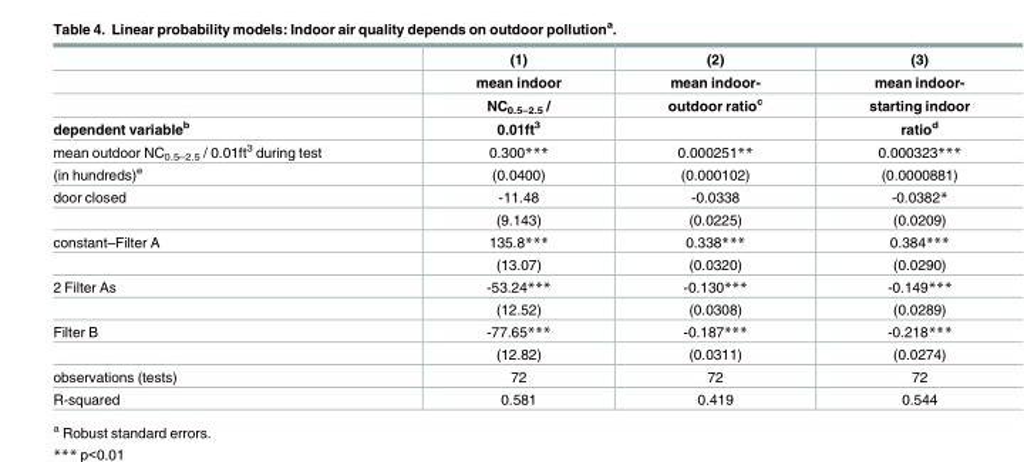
<table><thead><tr><td rowspan="4">dependent variable<sup>b</sup></td><td rowspan="4">(1) mean indoor NC<sub>0.5–2.5</sub> / 0.01ft<sup>3</sup></td><td rowspan="4">(2) mean indoor- outdoor ratio<sup>c</sup></td><td rowspan="4">(3) mean indoor- starting indoor ratio<sup>d</sup></td></tr><tr></tr><tr></tr><tr></tr></thead><tbody><tr><td>mean outdoor NC<sub>0.5–2.5</sub> / 0.01ft<sup>3</sup> during test</td><td>0.300***</td><td>0.000251**</td><td>0.000323***</td></tr><tr><td>(in hundreds)<sup>e</sup></td><td>(0.0400)</td><td>(0.000102)</td><td>(0.0000881)</td></tr><tr><td rowspan="2">door closed</td><td>-11.48</td><td>-0.0338</td><td>-0.0382*</td></tr><tr><td>(9.143)</td><td>(0.0225)</td><td>(0.0209)</td></tr><tr><td rowspan="2">constant–Filter A</td><td>135.8***</td><td>0.338***</td><td>0.384***</td></tr><tr><td>(13.07)</td><td>(0.0320)</td><td>(0.0290)</td></tr><tr><td rowspan="2">2 Filter As</td><td>-53.24***</td><td>-0.130***</td><td>-0.149***</td></tr><tr><td>(12.52)</td><td>(0.0308)</td><td>(0.0289)</td></tr><tr><td rowspan="2">Filter B</td><td>-77.65***</td><td>-0.187***</td><td>-0.218***</td></tr><tr><td>(12.82)</td><td>(0.0311)</td><td>(0.0274)</td></tr><tr><td>observations (tests)</td><td>72</td><td>72</td><td>72</td></tr><tr><td>R-squared</td><td>0.581</td><td>0.419</td><td>0.544</td></tr></tbody></table>